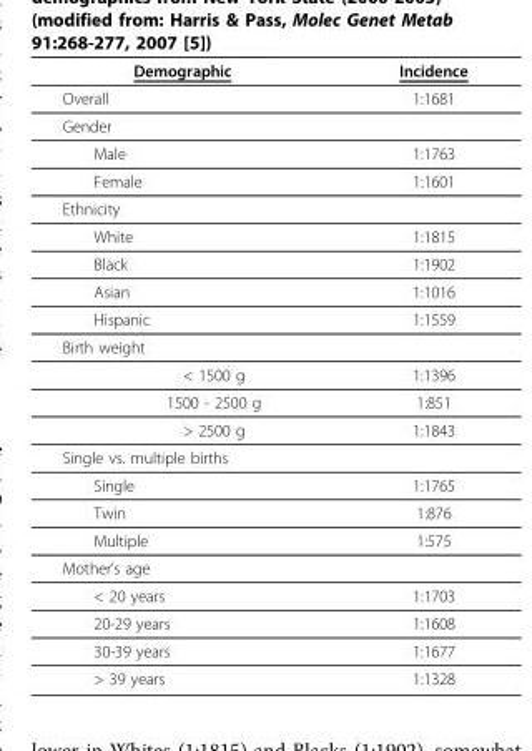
<table><thead><tr><td>Demographic</td><td>Incidence</td></tr></thead><tbody><tr><td>Overall</td><td>1:1681</td></tr><tr><td colspan="2">Gender</td></tr><tr><td>Male</td><td>1:1763</td></tr><tr><td>Female</td><td>1:1601</td></tr><tr><td colspan="2">Ethnicity</td></tr><tr><td>White</td><td>1:1815</td></tr><tr><td>Black</td><td>1:1902</td></tr><tr><td>Asian</td><td>1:1016</td></tr><tr><td>Hispanic</td><td>1:1559</td></tr><tr><td colspan="2">Birth weight</td></tr><tr><td>&lt; 1500 g</td><td>1:1396</td></tr><tr><td>1500 - 2500 g</td><td>1:851</td></tr><tr><td>&gt; 2500 g</td><td>1:1843</td></tr><tr><td colspan="2">Single vs. multiple births</td></tr><tr><td>Single</td><td>1:1765</td></tr><tr><td>Twin</td><td>1:876</td></tr><tr><td>Multiple</td><td>1:575</td></tr><tr><td colspan="2">Mother’s age</td></tr><tr><td>&lt; 20 years</td><td>1:1703</td></tr><tr><td>20-29 years</td><td>1:1608</td></tr><tr><td>30-39 years</td><td>1:1677</td></tr><tr><td>&gt; 39 years</td><td>1:1328</td></tr></tbody></table>